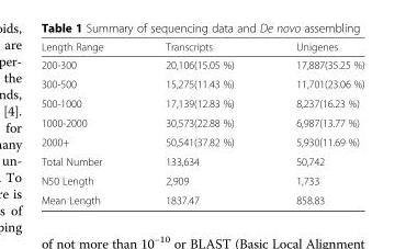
<table><thead><tr><td>Length Range</td><td>Transcripts</td><td>Unigenes</td></tr></thead><tbody><tr><td>200-300</td><td>20,106(15.05 %)</td><td>17,887(35.25 %)</td></tr><tr><td>300-500</td><td>15,275(11.43 %)</td><td>11,701(23.06 %)</td></tr><tr><td>500-1000</td><td>17,139(12.83 %)</td><td>8,237(16.23 %)</td></tr><tr><td>1000-2000</td><td>30,573(22.88 %)</td><td>6,987(13.77 %)</td></tr><tr><td>2000+</td><td>50,541(37.82 %)</td><td>5,930(11.69 %)</td></tr><tr><td>Total Number</td><td>133,634</td><td>50,742</td></tr><tr><td>N50 Length</td><td>2,909</td><td>1,733</td></tr><tr><td>Mean Length</td><td>1837.47</td><td>858.83</td></tr></tbody></table>